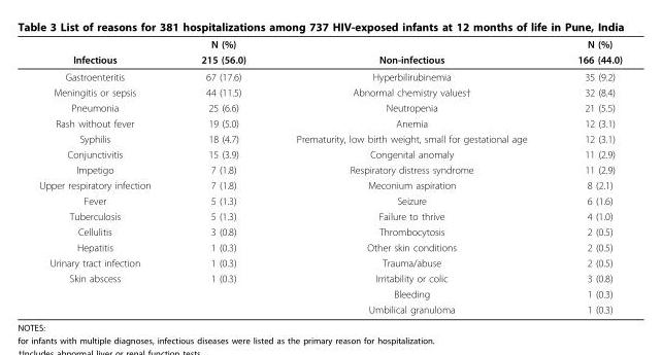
<table><thead><tr><td rowspan="2">Infectious</td><td rowspan="2">N (%) 215 (56.0)</td><td rowspan="2">Non-infectious</td><td rowspan="2">N (%) 166 (44.0)</td></tr><tr></tr></thead><tbody><tr><td>Gastroenteritis</td><td>67 (17.6)</td><td>Hyperbilirubinemia</td><td>35 (9.2)</td></tr><tr><td>Meningitis or sepsis</td><td>44 (11.5)</td><td>Abnormal chemistry values†</td><td>32 (8.4)</td></tr><tr><td>Pneumonia</td><td>25 (6.6)</td><td>Neutropenia</td><td>21 (5.5)</td></tr><tr><td>Rash without fever</td><td>19 (5.0)</td><td>Anemia</td><td>12 (3.1)</td></tr><tr><td>Syphilis</td><td>18 (4.7)</td><td>Prematurity, low birth weight, small for gestational age</td><td>12 (3.1)</td></tr><tr><td>Conjunctivitis</td><td>15 (3.9)</td><td>Congenital anomaly</td><td>11 (2.9)</td></tr><tr><td>Impetigo</td><td>7 (1.8)</td><td>Respiratory distress syndrome</td><td>11 (2.9)</td></tr><tr><td>Upper respiratory infection</td><td>7 (1.8)</td><td>Meconium aspiration</td><td>8 (2.1)</td></tr><tr><td>Fever</td><td>5 (1.3)</td><td>Seizure</td><td>6 (1.6)</td></tr><tr><td>Tuberculosis</td><td>5 (1.3)</td><td>Failure to thrive</td><td>4 (1.0)</td></tr><tr><td>Cellulitis</td><td>3 (0.8)</td><td>Thrombocytosis</td><td>2 (0.5)</td></tr><tr><td>Hepatitis</td><td>1 (0.3)</td><td>Other skin conditions</td><td>2 (0.5)</td></tr><tr><td>Urinary tract infection</td><td>1 (0.3)</td><td>Trauma/abuse</td><td>2 (0.5)</td></tr><tr><td rowspan="3">Skin abscess</td><td>1 (0.3)</td><td>Irritability or colic</td><td>3 (0.8)</td></tr><tr><td></td><td>Bleeding</td><td>1 (0.3)</td></tr><tr><td></td><td>Umbilical granuloma</td><td>1 (0.3)</td></tr></tbody></table>